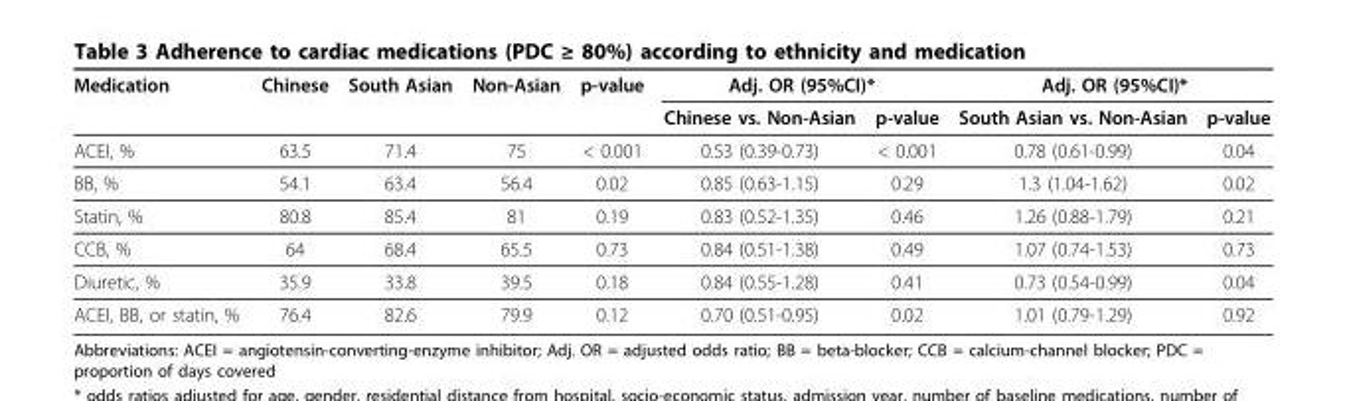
<table><thead><tr><td rowspan="2">Medication</td><td rowspan="2">Chinese</td><td rowspan="2">South Asian</td><td rowspan="2">Non-Asian</td><td rowspan="2">p-value</td><td colspan="2">Adj. OR (95%CI)*</td><td colspan="2">Adj. OR (95%CI)*</td></tr><tr><td>Chinese vs. Non-Asian</td><td>p-value</td><td>South Asian vs. Non-Asian</td><td>p-value</td></tr></thead><tbody><tr><td>ACEI, %</td><td>63.5</td><td>71.4</td><td>75</td><td>&lt; 0.001</td><td>0.53 (0.39-0.73)</td><td>&lt; 0.001</td><td>0.78 (0.61-0.99)</td><td>0.04</td></tr><tr><td>BB, %</td><td>54.1</td><td>63.4</td><td>56.4</td><td>0.02</td><td>0.85 (0.63-1.15)</td><td>0.29</td><td>1.3 (1.04-1.62)</td><td>0.02</td></tr><tr><td>Statin, %</td><td>80.8</td><td>85.4</td><td>81</td><td>0.19</td><td>0.83 (0.52-1.35)</td><td>0.46</td><td>1.26 (0.88-1.79)</td><td>0.21</td></tr><tr><td>CCB, %</td><td>64</td><td>68.4</td><td>65.5</td><td>0.73</td><td>0.84 (0.51-1.38)</td><td>0.49</td><td>1.07 (0.74-1.53)</td><td>0.73</td></tr><tr><td>Diuretic, %</td><td>35.9</td><td>33.8</td><td>39.5</td><td>0.18</td><td>0.84 (0.55-1.28)</td><td>0.41</td><td>0.73 (0.54-0.99)</td><td>0.04</td></tr><tr><td>ACEI, BB, or statin, %</td><td>76.4</td><td>82.6</td><td>79.9</td><td>0.12</td><td>0.70 (0.51-0.95)</td><td>0.02</td><td>1.01 (0.79-1.29)</td><td>0.92</td></tr></tbody></table>